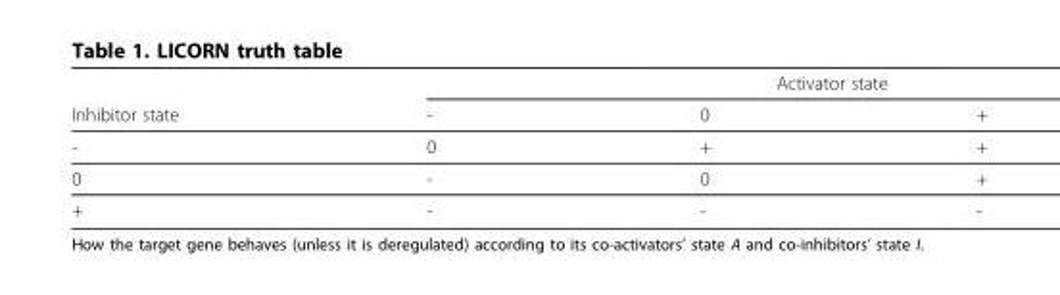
<table><thead><tr><td rowspan="2">Inhibitor state</td><td colspan="3">Activator state</td></tr><tr><td>-</td><td>0</td><td>+</td></tr></thead><tbody><tr><td>-</td><td>0</td><td>+</td><td>+</td></tr><tr><td>0</td><td>-</td><td>0</td><td>+</td></tr><tr><td>+</td><td>-</td><td>-</td><td>-</td></tr></tbody></table>